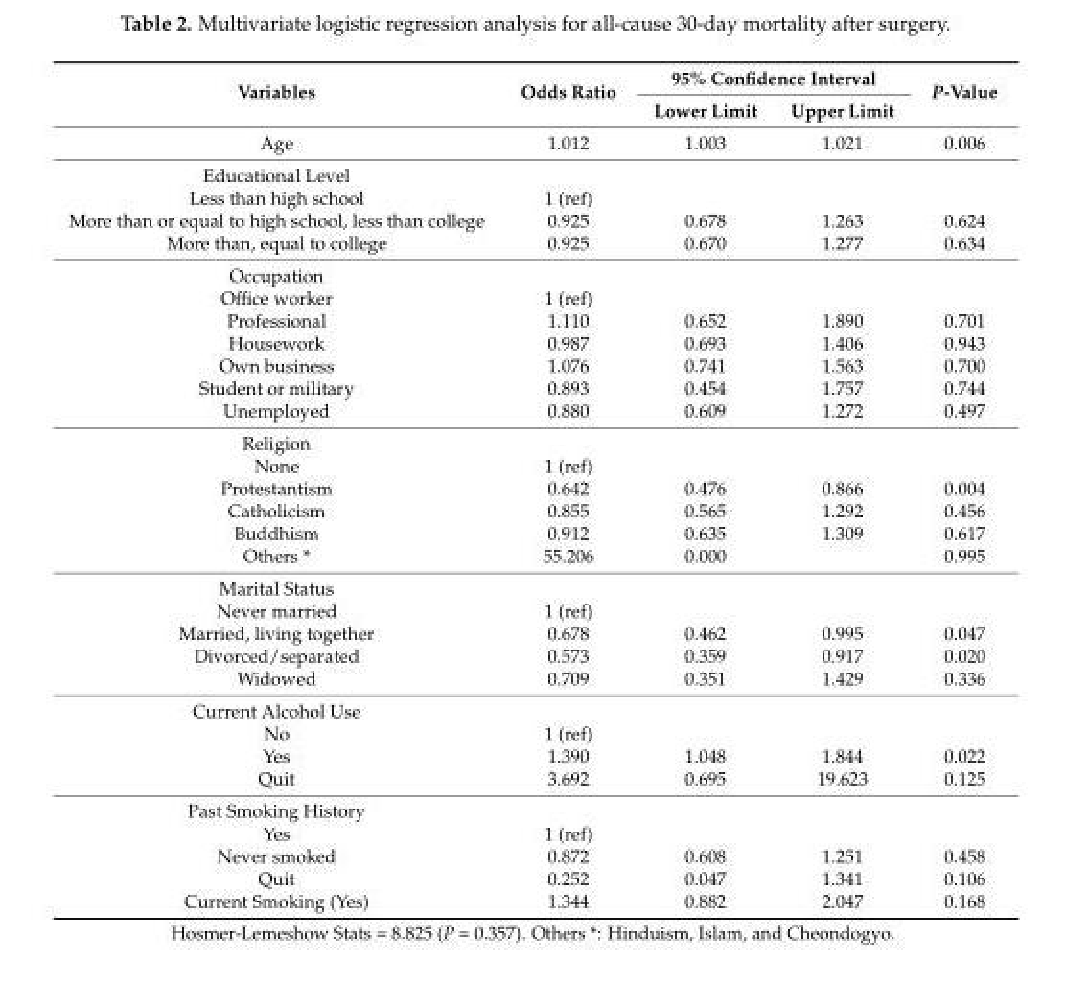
<table><thead><tr><td rowspan="2">Variables</td><td rowspan="2">Odds Ratio</td><td colspan="2">95% Confidence Interval</td><td rowspan="2">P-Value</td></tr><tr><td>Lower Limit</td><td>Upper Limit</td></tr></thead><tbody><tr><td>Age</td><td>1.012</td><td>1.003</td><td>1.021</td><td>0.006</td></tr><tr><td colspan="5">Educational Level</td></tr><tr><td>Less than high school</td><td>1 (ref)</td><td></td><td></td><td></td></tr><tr><td>More than or equal to high school, less than college</td><td>0.925</td><td>0.678</td><td>1.263</td><td>0.624</td></tr><tr><td>More than, equal to college</td><td>0.925</td><td>0.670</td><td>1.277</td><td>0.634</td></tr><tr><td colspan="5">Occupation</td></tr><tr><td>Office worker</td><td>1 (ref)</td><td></td><td></td><td></td></tr><tr><td>Professional</td><td>1.110</td><td>0.652</td><td>1.890</td><td>0.701</td></tr><tr><td>Housework</td><td>0.987</td><td>0.693</td><td>1.406</td><td>0.943</td></tr><tr><td>Own business</td><td>1.076</td><td>0.741</td><td>1.563</td><td>0.700</td></tr><tr><td>Student or military</td><td>0.893</td><td>0.454</td><td>1.757</td><td>0.744</td></tr><tr><td>Unemployed</td><td>0.880</td><td>0.609</td><td>1.272</td><td>0.497</td></tr><tr><td colspan="5">Religion</td></tr><tr><td>None</td><td>1 (ref)</td><td></td><td></td><td></td></tr><tr><td>Protestantism</td><td>0.642</td><td>0.476</td><td>0.866</td><td>0.004</td></tr><tr><td>Catholicism</td><td>0.855</td><td>0.565</td><td>1.292</td><td>0.456</td></tr><tr><td>Buddhism</td><td>0.912</td><td>0.635</td><td>1.309</td><td>0.617</td></tr><tr><td>Others *</td><td>55.206</td><td>0.000</td><td></td><td>0.995</td></tr><tr><td colspan="5">Marital Status</td></tr><tr><td>Never married</td><td>1 (ref)</td><td></td><td></td><td></td></tr><tr><td>Married, living together</td><td>0.678</td><td>0.462</td><td>0.995</td><td>0.047</td></tr><tr><td>Divorced/separated</td><td>0.573</td><td>0.359</td><td>0.917</td><td>0.020</td></tr><tr><td>Widowed</td><td>0.709</td><td>0.351</td><td>1.429</td><td>0.336</td></tr><tr><td colspan="5">Current Alcohol Use</td></tr><tr><td>No</td><td>1 (ref)</td><td></td><td></td><td></td></tr><tr><td>Yes</td><td>1.390</td><td>1.048</td><td>1.844</td><td>0.022</td></tr><tr><td>Quit</td><td>3.692</td><td>0.695</td><td>19.623</td><td>0.125</td></tr><tr><td colspan="5">Past Smoking History</td></tr><tr><td>Yes</td><td>1 (ref)</td><td></td><td></td><td></td></tr><tr><td>Never smoked</td><td>0.872</td><td>0.608</td><td>1.251</td><td>0.458</td></tr><tr><td>Quit</td><td>0.252</td><td>0.047</td><td>1.341</td><td>0.106</td></tr><tr><td>Current Smoking (Yes)</td><td>1.344</td><td>0.882</td><td>2.047</td><td>0.168</td></tr></tbody></table>